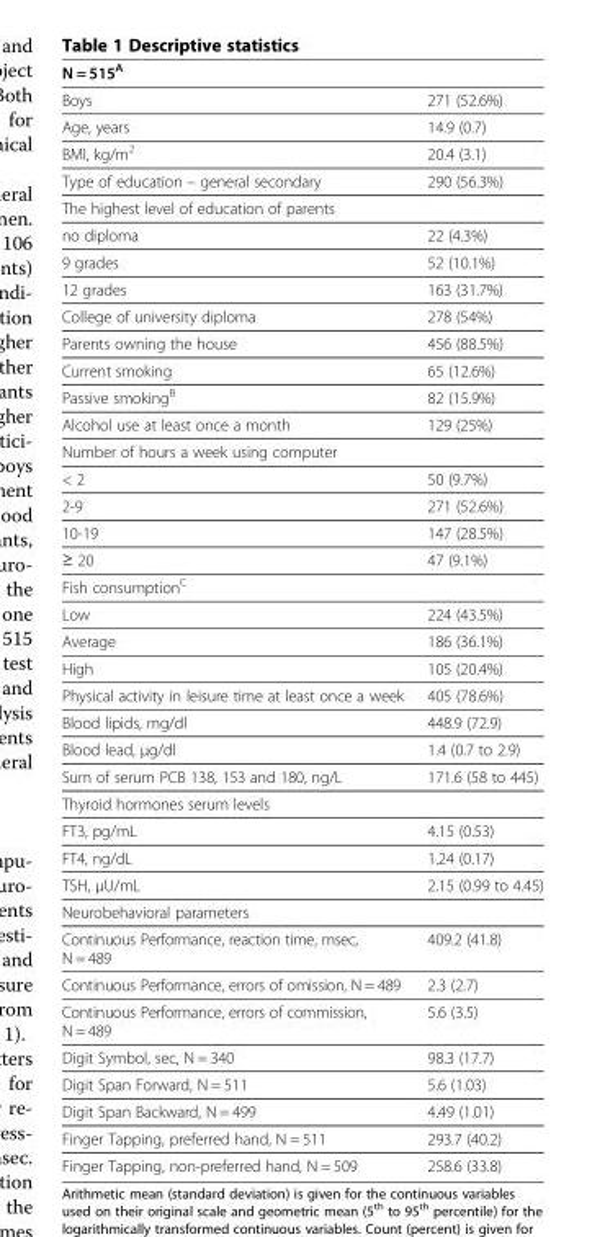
<table><thead><tr><td>N = 515<sup>A</sup></td><td></td></tr></thead><tbody><tr><td>Boys</td><td>271 (52.6%)</td></tr><tr><td>Age, years</td><td>14.9 (0.7)</td></tr><tr><td>BMI, kg/m<sup>2</sup></td><td>20.4 (3.1)</td></tr><tr><td>Type of education – general secondary</td><td>290 (56.3%)</td></tr><tr><td colspan="2">The highest level of education of parents</td></tr><tr><td>no diploma</td><td>22 (4.3%)</td></tr><tr><td>9 grades</td><td>52 (10.1%)</td></tr><tr><td>12 grades</td><td>163 (31.7%)</td></tr><tr><td>College of university diploma</td><td>278 (54%)</td></tr><tr><td>Parents owning the house</td><td>456 (88.5%)</td></tr><tr><td>Current smoking</td><td>65 (12.6%)</td></tr><tr><td>Passive smoking<sup>B</sup></td><td>82 (15.9%)</td></tr><tr><td>Alcohol use at least once a month</td><td>129 (25%)</td></tr><tr><td colspan="2">Number of hours a week using computer</td></tr><tr><td>&lt; 2</td><td>50 (9.7%)</td></tr><tr><td>2-9</td><td>271 (52.6%)</td></tr><tr><td>10-19</td><td>147 (28.5%)</td></tr><tr><td>≥ 20</td><td>47 (9.1%)</td></tr><tr><td colspan="2">Fish consumption<sup>C</sup></td></tr><tr><td>Low</td><td>224 (43.5%)</td></tr><tr><td>Average</td><td>186 (36.1%)</td></tr><tr><td>High</td><td>105 (20.4%)</td></tr><tr><td>Physical activity in leisure time at least once a week</td><td>405 (78.6%)</td></tr><tr><td>Blood lipids, mg/dl</td><td>448.9 (72.9)</td></tr><tr><td>Blood lead, μg/dl</td><td>1.4 (0.7 to 2.9)</td></tr><tr><td>Sum of serum PCB 138, 153 and 180, ng/L</td><td>171.6 (58 to 445)</td></tr><tr><td colspan="2">Thyroid hormones serum levels</td></tr><tr><td>FT3, pg/mL</td><td>4.15 (0.53)</td></tr><tr><td>FT4, ng/dL</td><td>1.24 (0.17)</td></tr><tr><td>TSH, μU/mL</td><td>2.15 (0.99 to 4.45)</td></tr><tr><td colspan="2">Neurobehavioral parameters</td></tr><tr><td>Continuous Performance, reaction time, msec, N = 489</td><td>409.2 (41.8)</td></tr><tr><td>Continuous Performance, errors of omission, N = 489</td><td>2.3 (2.7)</td></tr><tr><td>Continuous Performance, errors of commission, N = 489</td><td>5.6 (3.5)</td></tr><tr><td>Digit Symbol, sec, N = 340</td><td>98.3 (17.7)</td></tr><tr><td>Digit Span Forward, N = 511</td><td>5.6 (1.03)</td></tr><tr><td>Digit Span Backward, N = 499</td><td>4.49 (1.01)</td></tr><tr><td>Finger Tapping, preferred hand, N = 511</td><td>293.7 (40.2)</td></tr><tr><td>Finger Tapping, non-preferred hand, N = 509</td><td>258.6 (33.8)</td></tr></tbody></table>